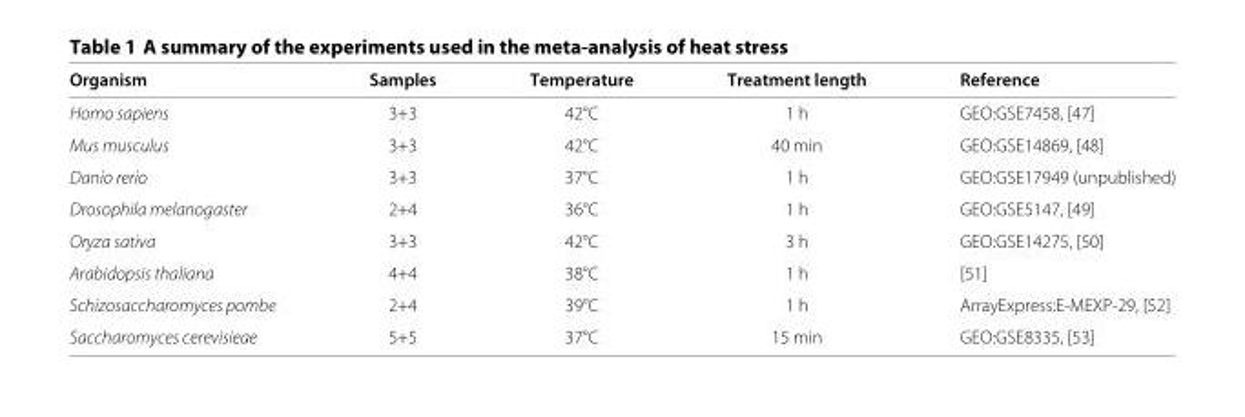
<table><thead><tr><td>Organism</td><td>Samples</td><td>Temperature</td><td>Treatment length</td><td>Reference</td></tr></thead><tbody><tr><td>Homo sapiens</td><td>3+3</td><td>42°C</td><td>1 h</td><td>GEO:GSE7458, [47]</td></tr><tr><td>Mus musculus</td><td>3+3</td><td>42°C</td><td>40 min</td><td>GEO:GSE14869, [48]</td></tr><tr><td>Danio rerio</td><td>3+3</td><td>37°C</td><td>1 h</td><td>GEO:GSE17949 (unpublished)</td></tr><tr><td>Drosophila melanogaster</td><td>2+4</td><td>36°C</td><td>1 h</td><td>GEO:GSE5147, [49]</td></tr><tr><td>Oryza sativa</td><td>3+3</td><td>42°C</td><td>3 h</td><td>GEO:GSE14275, [50]</td></tr><tr><td>Arabidopsis thaliana</td><td>4+4</td><td>38°C</td><td>1 h</td><td>[51]</td></tr><tr><td>Schizosaccharomyces pombe</td><td>2+4</td><td>39°C</td><td>1 h</td><td>ArrayExpress:E-MEXP-29, [52]</td></tr><tr><td>Saccharomyces cerevisieae</td><td>5+5</td><td>37°C</td><td>15 min</td><td>GEO:GSE8335, [53]</td></tr></tbody></table>